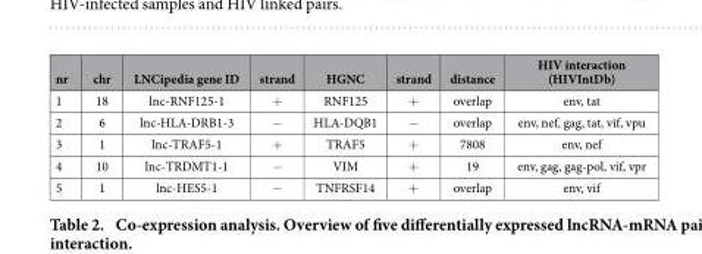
<table><thead><tr><td>nr</td><td>chr</td><td>LNCipedia gene ID</td><td>strand</td><td>HGNC</td><td>strand</td><td>distance</td><td>HIV interaction (HIVIntDb)</td></tr></thead><tbody><tr><td>1</td><td>18</td><td>lnc-RNF125-1</td><td>+</td><td>RNF125</td><td>+</td><td>overlap</td><td>env, tat</td></tr><tr><td>2</td><td>6</td><td>lnc-HLA-DRB1-3</td><td>−</td><td>HLA-DQB1</td><td>−</td><td>overlap</td><td>env, nef, gag, tat, vif, vpu</td></tr><tr><td>3</td><td>1</td><td>lnc-TRAF5-1</td><td>+</td><td>TRAF5</td><td>+</td><td>7808</td><td>env, nef</td></tr><tr><td>4</td><td>10</td><td>lnc-TRDMT1-1</td><td>−</td><td>VIM</td><td>+</td><td>19</td><td>env, gag, gag-pol, vif, vpr</td></tr><tr><td>5</td><td>1</td><td>lnc-HES5-1</td><td>−</td><td>TNFRSF14</td><td>+</td><td>overlap</td><td>env, vif</td></tr></tbody></table>